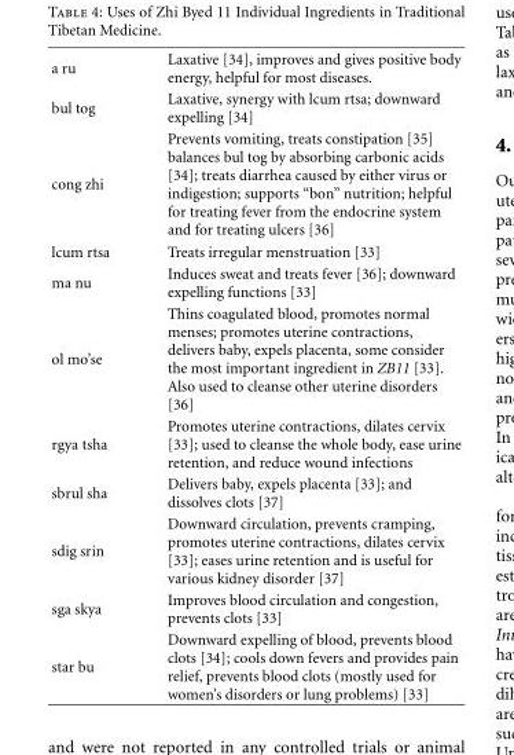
<table><tbody><tr><td>a ru</td><td>Laxative [34], improves and gives positive body energy, helpful for most diseases.</td></tr><tr><td>bul tog</td><td>Laxative, synergy with lcum rtsa; downward expelling [34]</td></tr><tr><td>cong zhi</td><td>Prevents vomiting, treats constipation [35] balances bul tog by absorbing carbonic acids [34]; treats diarrhea caused by either virus or indigestion; supports “bon” nutrition; helpful for treating fever from the endocrine system and for treating ulcers [36]</td></tr><tr><td>lcum rtsa</td><td>Treats irregular menstruation [33]</td></tr><tr><td>ma nu</td><td>Induces sweat and treats fever [36]; downward expelling functions [33]</td></tr><tr><td>ol mo’se</td><td>Thins coagulated blood, promotes normal menses; promotes uterine contractions, delivers baby, expels placenta, some consider the most important ingredient in ZB11 [33]. Also used to cleanse other uterine disorders [36]</td></tr><tr><td>rgya tsha</td><td>Promotes uterine contractions, dilates cervix [33]; used to cleanse the whole body, ease urine retention, and reduce wound infections</td></tr><tr><td>sbrul sha</td><td>Delivers baby, expels placenta [33]; and dissolves clots [37]</td></tr><tr><td>sdig srin</td><td>Downward circulation, prevents cramping, promotes uterine contractions, dilates cervix [33]; eases urine retention and is useful for various kidney disorder [37]</td></tr><tr><td>sga skya</td><td>Improves blood circulation and congestion, prevents clots [33]</td></tr><tr><td>star bu</td><td>Downward expelling of blood, prevents blood clots [34]; cools down fevers and provides pain relief, prevents blood clots (mostly used for women’s disorders or lung problems) [33]</td></tr></tbody></table>